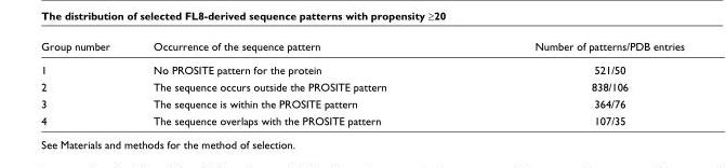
<table><thead><tr><td>Group number</td><td>Occurrence of the sequence pattern</td><td>Number of patterns/PDB entries</td></tr></thead><tbody><tr><td>1</td><td>No PROSITE pattern for the protein</td><td>521/50</td></tr><tr><td>2</td><td>The sequence occurs outside the PROSITE pattern</td><td>838/106</td></tr><tr><td>3</td><td>The sequence is within the PROSITE pattern</td><td>364/76</td></tr><tr><td>4</td><td>The sequence overlaps with the PROSITE pattern</td><td>107/35</td></tr></tbody></table>